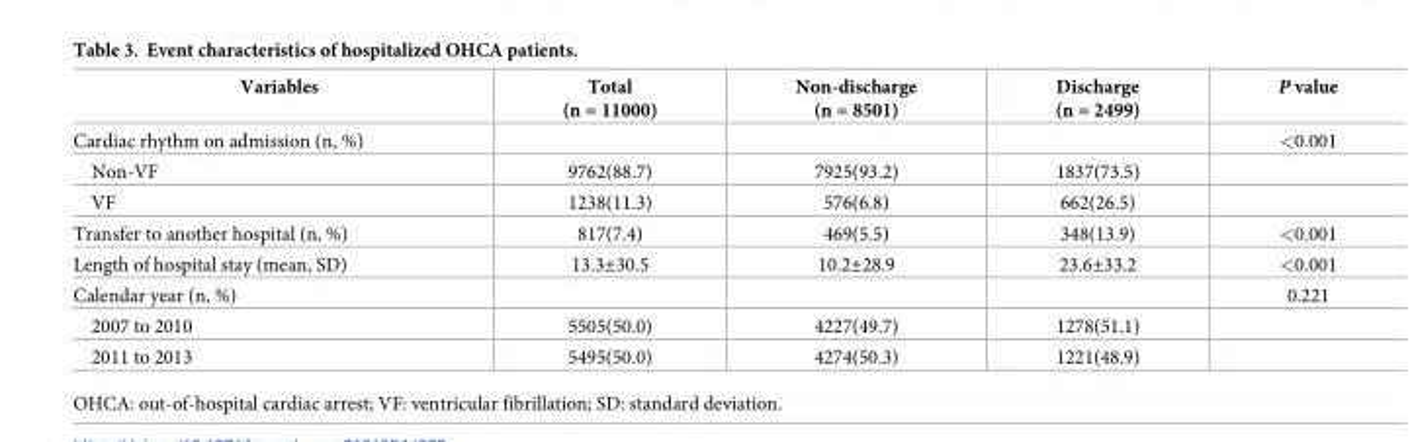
<table><thead><tr><td>Variables</td><td>Total (n = 11000)</td><td>Non-discharge (n = 8501)</td><td>Discharge (n = 2499)</td><td>P value</td></tr></thead><tbody><tr><td>Cardiac rhythm on admission (n, %)</td><td></td><td></td><td></td><td>&lt;0.001</td></tr><tr><td>Non-VF</td><td>9762(88.7)</td><td>7925(93.2)</td><td>1837(73.5)</td><td></td></tr><tr><td>VF</td><td>1238(11.3)</td><td>576(6.8)</td><td>662(26.5)</td><td></td></tr><tr><td>Transfer to another hospital (n, %)</td><td>817(7.4)</td><td>469(5.5)</td><td>348(13.9)</td><td>&lt;0.001</td></tr><tr><td>Length of hospital stay (mean, SD)</td><td>13.3±30.5</td><td>10.2±28.9</td><td>23.6±33.2</td><td>&lt;0.001</td></tr><tr><td>Calendar year (n, %)</td><td></td><td></td><td></td><td>0.221</td></tr><tr><td>2007 to 2010</td><td>5505(50.0)</td><td>4227(49.7)</td><td>1278(51.1)</td><td></td></tr><tr><td>2011 to 2013</td><td>5495(50.0)</td><td>4274(50.3)</td><td>1221(48.9)</td><td></td></tr></tbody></table>